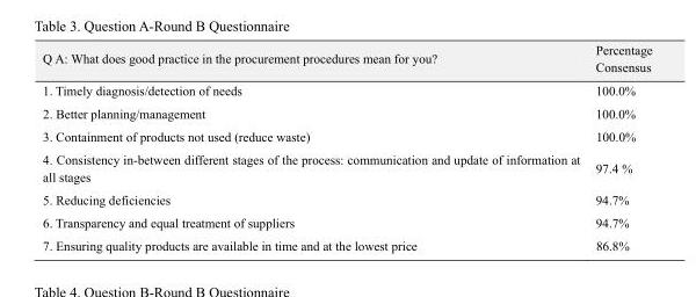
<table><thead><tr><td>Q A: What does good practice in the procurement procedures mean for you?</td><td>Percentage Consensus</td></tr></thead><tbody><tr><td>1. Timely diagnosis/detection of needs</td><td>100.0%</td></tr><tr><td>2. Better planning/management</td><td>100.0%</td></tr><tr><td>3. Containment of products not used (reduce waste)</td><td>100.0%</td></tr><tr><td>4. Consistency in-between different stages of the process: communication and update of information at all stages</td><td>97.4 %</td></tr><tr><td>5. Reducing deficiencies</td><td>94.7%</td></tr><tr><td>6. Transparency and equal treatment of suppliers</td><td>94.7%</td></tr><tr><td>7. Ensuring quality products are available in time and at the lowest price</td><td>86.8%</td></tr></tbody></table>